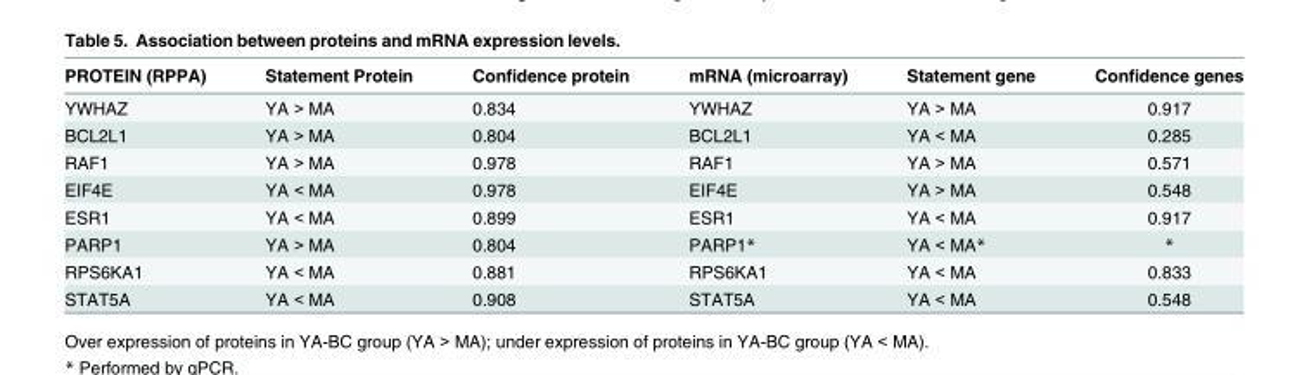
<table><thead><tr><td>PROTEIN (RPPA)</td><td>Statement Protein</td><td>Confidence protein</td><td>mRNA (microarray)</td><td>Statement gene</td><td>Confidence genes</td></tr></thead><tbody><tr><td>YWHAZ</td><td>YA &gt; MA</td><td>0.834</td><td>YWHAZ</td><td>YA &gt; MA</td><td>0.917</td></tr><tr><td>BCL2L1</td><td>YA &gt; MA</td><td>0.804</td><td>BCL2L1</td><td>YA &lt; MA</td><td>0.285</td></tr><tr><td>RAF1</td><td>YA &gt; MA</td><td>0.978</td><td>RAF1</td><td>YA &gt; MA</td><td>0.571</td></tr><tr><td>EIF4E</td><td>YA &lt; MA</td><td>0.978</td><td>EIF4E</td><td>YA &gt; MA</td><td>0.548</td></tr><tr><td>ESR1</td><td>YA &lt; MA</td><td>0.899</td><td>ESR1</td><td>YA &lt; MA</td><td>0.917</td></tr><tr><td>PARP1</td><td>YA &gt; MA</td><td>0.804</td><td>PARP1*</td><td>YA &lt; MA*</td><td>*</td></tr><tr><td>RPS6KA1</td><td>YA &lt; MA</td><td>0.881</td><td>RPS6KA1</td><td>YA &lt; MA</td><td>0.833</td></tr><tr><td>STAT5A</td><td>YA &lt; MA</td><td>0.908</td><td>STAT5A</td><td>YA &lt; MA</td><td>0.548</td></tr></tbody></table>